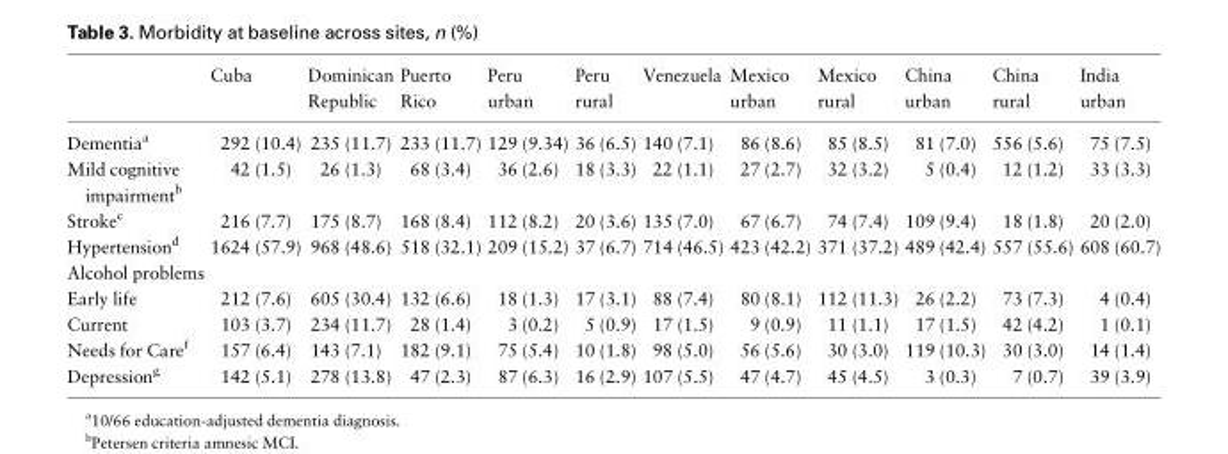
<table><thead><tr><td></td><td>Cuba</td><td>Dominican Republic</td><td>Puerto Rico</td><td>Peru urban</td><td>Peru rural</td><td>Venezuela</td><td>Mexico urban</td><td>Mexico rural</td><td>China urban</td><td>China rural</td><td>India urban</td></tr></thead><tbody><tr><td>Dementia<sup>a</sup></td><td>292 (10.4)</td><td>235 (11.7)</td><td>233 (11.7)</td><td>129 (9.34)</td><td>36 (6.5)</td><td>140 (7.1)</td><td>86 (8.6)</td><td>85 (8.5)</td><td>81 (7.0)</td><td>556 (5.6)</td><td>75 (7.5)</td></tr><tr><td>Mild cognitive impairment<sup>b</sup></td><td>42 (1.5)</td><td>26 (1.3)</td><td>68 (3.4)</td><td>36 (2.6)</td><td>18 (3.3)</td><td>22 (1.1)</td><td>27 (2.7)</td><td>32 (3.2)</td><td>5 (0.4)</td><td>12 (1.2)</td><td>33 (3.3)</td></tr><tr><td>Stroke<sup>c</sup></td><td>216 (7.7)</td><td>175 (8.7)</td><td>168 (8.4)</td><td>112 (8.2)</td><td>20 (3.6)</td><td>135 (7.0)</td><td>67 (6.7)</td><td>74 (7.4)</td><td>109 (9.4)</td><td>18 (1.8)</td><td>20 (2.0)</td></tr><tr><td>Hypertension<sup>d</sup></td><td>1624 (57.9)</td><td>968 (48.6)</td><td>518 (32.1)</td><td>209 (15.2)</td><td>37 (6.7)</td><td>714 (46.5)</td><td>423 (42.2)</td><td>371 (37.2)</td><td>489 (42.4)</td><td>557 (55.6)</td><td>608 (60.7)</td></tr><tr><td colspan="12">Alcohol problems</td></tr><tr><td>Early life</td><td>212 (7.6)</td><td>605 (30.4)</td><td>132 (6.6)</td><td>18 (1.3)</td><td>17 (3.1)</td><td>88 (7.4)</td><td>80 (8.1)</td><td>112 (11.3)</td><td>26 (2.2)</td><td>73 (7.3)</td><td>4 (0.4)</td></tr><tr><td>Current</td><td>103 (3.7)</td><td>234 (11.7)</td><td>28 (1.4)</td><td>3 (0.2)</td><td>5 (0.9)</td><td>17 (1.5)</td><td>9 (0.9)</td><td>11 (1.1)</td><td>17 (1.5)</td><td>42 (4.2)</td><td>1 (0.1)</td></tr><tr><td>Needs for Care<sup>f</sup></td><td>157 (6.4)</td><td>143 (7.1)</td><td>182 (9.1)</td><td>75 (5.4)</td><td>10 (1.8)</td><td>98 (5.0)</td><td>56 (5.6)</td><td>30 (3.0)</td><td>119 (10.3)</td><td>30 (3.0)</td><td>14 (1.4)</td></tr><tr><td>Depression<sup>g</sup></td><td>142 (5.1)</td><td>278 (13.8)</td><td>47 (2.3)</td><td>87 (6.3)</td><td>16 (2.9)</td><td>107 (5.5)</td><td>47 (4.7)</td><td>45 (4.5)</td><td>3 (0.3)</td><td>7 (0.7)</td><td>39 (3.9)</td></tr></tbody></table>